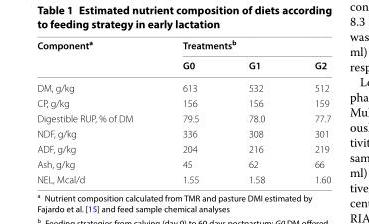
<table><thead><tr><td rowspan="2">Component<sup>a</sup></td><td colspan="3">Treatments<sup>b</sup></td></tr><tr><td>G0</td><td>G1</td><td>G2</td></tr></thead><tbody><tr><td>DM, g/kg</td><td>613</td><td>532</td><td>512</td></tr><tr><td>CP, g/kg</td><td>156</td><td>156</td><td>159</td></tr><tr><td>Digestible RUP, % of DM</td><td>79.5</td><td>78.0</td><td>77.7</td></tr><tr><td>NDF, g/kg</td><td>336</td><td>308</td><td>301</td></tr><tr><td>ADF, g/kg</td><td>204</td><td>216</td><td>219</td></tr><tr><td>Ash, g/kg</td><td>45</td><td>62</td><td>66</td></tr><tr><td>NEL, Mcal/d</td><td>1.55</td><td>1.58</td><td>1.60</td></tr></tbody></table>